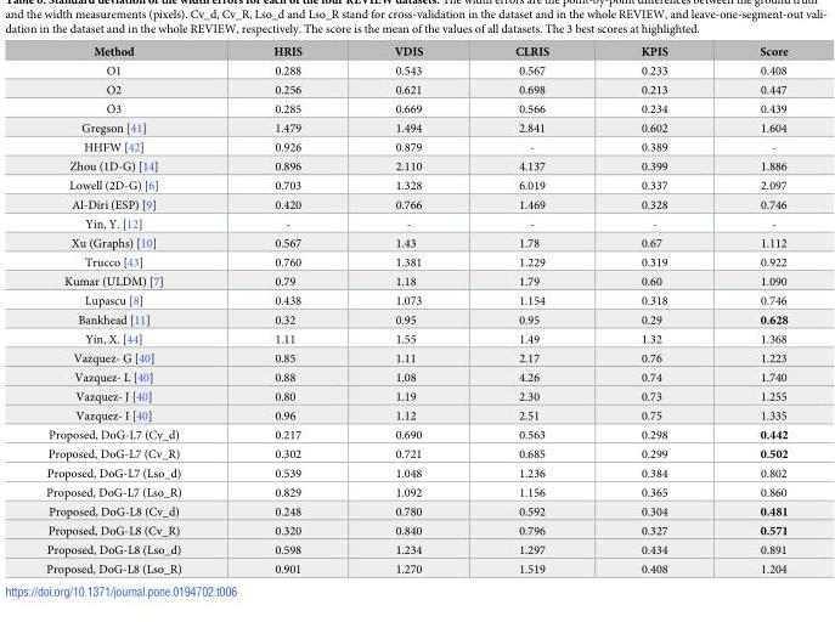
<table><thead><tr><td>Method</td><td>HRIS</td><td>VDIS</td><td>CLRIS</td><td>KPIS</td><td>Score</td></tr></thead><tbody><tr><td>O1</td><td>0.288</td><td>0.543</td><td>0.567</td><td>0.233</td><td>0.408</td></tr><tr><td>O2</td><td>0.256</td><td>0.621</td><td>0.698</td><td>0.213</td><td>0.447</td></tr><tr><td>O3</td><td>0.285</td><td>0.669</td><td>0.566</td><td>0.234</td><td>0.439</td></tr><tr><td>Gregson [41]</td><td>1.479</td><td>1.494</td><td>2.841</td><td>0.602</td><td>1.604</td></tr><tr><td>HHFW [42]</td><td>0.926</td><td>0.879</td><td>-</td><td>0.389</td><td>-</td></tr><tr><td>Zhou (1D-G) [14]</td><td>0.896</td><td>2.110</td><td>4.137</td><td>0.399</td><td>1.886</td></tr><tr><td>Lowell (2D-G) [6]</td><td>0.703</td><td>1.328</td><td>6.019</td><td>0.337</td><td>2.097</td></tr><tr><td>Al-Diri (ESP) [9]</td><td>0.420</td><td>0.766</td><td>1.469</td><td>0.328</td><td>0.746</td></tr><tr><td>Yin, Y. [12]</td><td>-</td><td>-</td><td>-</td><td>-</td><td>-</td></tr><tr><td>Xu (Graphs) [10]</td><td>0.567</td><td>1.43</td><td>1.78</td><td>0.67</td><td>1.112</td></tr><tr><td>Trucco [43]</td><td>0.760</td><td>1.381</td><td>1.229</td><td>0.319</td><td>0.922</td></tr><tr><td>Kumar (ULDM) [7]</td><td>0.79</td><td>1.18</td><td>1.79</td><td>0.60</td><td>1.090</td></tr><tr><td>Lupascu [8]</td><td>0.438</td><td>1.073</td><td>1.154</td><td>0.318</td><td>0.746</td></tr><tr><td>Bankhead [11]</td><td>0.32</td><td>0.95</td><td>0.95</td><td>0.29</td><td>0.628</td></tr><tr><td>Yin, X. [44]</td><td>1.11</td><td>1.55</td><td>1.49</td><td>1.32</td><td>1.368</td></tr><tr><td>Vazquez- G [40]</td><td>0.85</td><td>1.11</td><td>2.17</td><td>0.76</td><td>1.223</td></tr><tr><td>Vazquez- L [40]</td><td>0.88</td><td>1.08</td><td>4.26</td><td>0.74</td><td>1.740</td></tr><tr><td>Vazquez- J [40]</td><td>0.80</td><td>1.19</td><td>2.30</td><td>0.73</td><td>1.255</td></tr><tr><td>Vazquez- I [40]</td><td>0.96</td><td>1.12</td><td>2.51</td><td>0.75</td><td>1.335</td></tr><tr><td>Proposed, DoG-L7 (Cv_d)</td><td>0.217</td><td>0.690</td><td>0.563</td><td>0.298</td><td>0.442</td></tr><tr><td>Proposed, DoG-L7 (Cv_R)</td><td>0.302</td><td>0.721</td><td>0.685</td><td>0.299</td><td>0.502</td></tr><tr><td>Proposed, DoG-L7 (Lso_d)</td><td>0.539</td><td>1.048</td><td>1.236</td><td>0.384</td><td>0.802</td></tr><tr><td>Proposed, DoG-L7 (Lso_R)</td><td>0.829</td><td>1.092</td><td>1.156</td><td>0.365</td><td>0.860</td></tr><tr><td>Proposed, DoG-L8 (Cv_d)</td><td>0.248</td><td>0.780</td><td>0.592</td><td>0.304</td><td>0.481</td></tr><tr><td>Proposed, DoG-L8 (Cv_R)</td><td>0.320</td><td>0.840</td><td>0.796</td><td>0.327</td><td>0.571</td></tr><tr><td>Proposed, DoG-L8 (Lso_d)</td><td>0.598</td><td>1.234</td><td>1.297</td><td>0.434</td><td>0.891</td></tr><tr><td>Proposed, DoG-L8 (Lso_R)</td><td>0.901</td><td>1.270</td><td>1.519</td><td>0.408</td><td>1.204</td></tr></tbody></table>